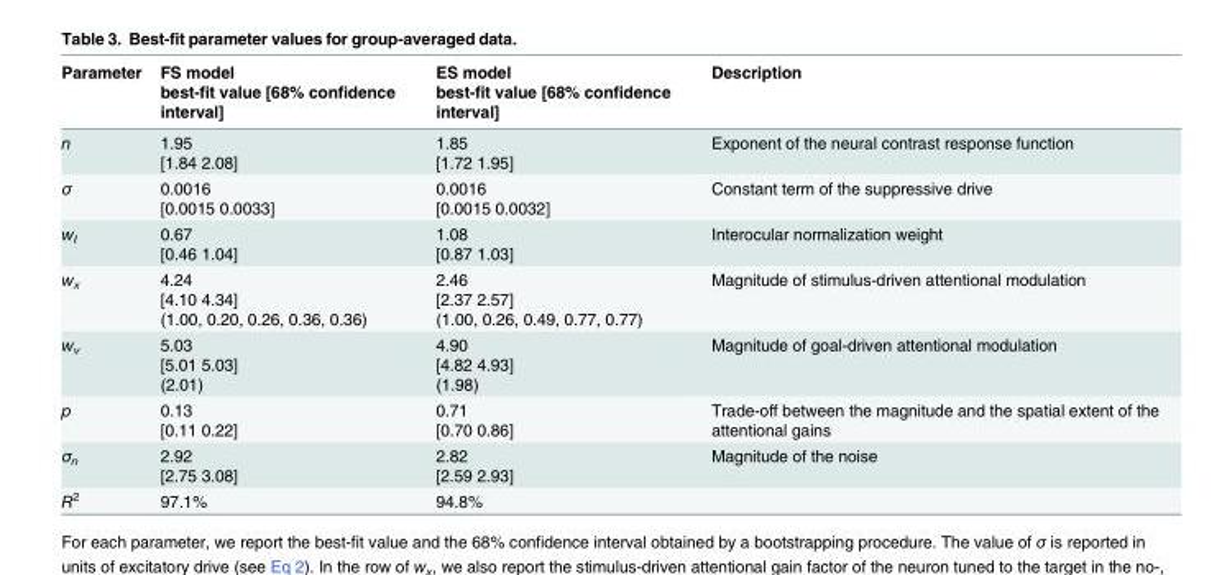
<table><thead><tr><td rowspan="2">Parameter</td><td rowspan="2">FS model best-fit value [68% confidence interval]</td><td rowspan="2">ES model best-fit value [68% confidence interval]</td><td rowspan="2">Description</td></tr><tr></tr></thead><tbody><tr><td>n</td><td>1.95 [1.84 2.08]</td><td>1.85 [1.72 1.95]</td><td>Exponent of the neural contrast response function</td></tr><tr><td>σ</td><td>0.0016 [0.0015 0.0033]</td><td>0.0016 [0.0015 0.0032]</td><td>Constant term of the suppressive drive</td></tr><tr><td>w<sub>I</sub></td><td>0.67 [0.46 1.04]</td><td>1.08 [0.87 1.03]</td><td>Interocular normalization weight</td></tr><tr><td>w<sub>x</sub></td><td>4.24 [4.10 4.34] (1.00, 0.20, 0.26, 0.36, 0.36)</td><td>2.46 [2.37 2.57] (1.00, 0.26, 0.49, 0.77, 0.77)</td><td>Magnitude of stimulus-driven attentional modulation</td></tr><tr><td>w<sub>v</sub></td><td>5.03 [5.01 5.03] (2.01)</td><td>4.90 [4.82 4.93] (1.98)</td><td>Magnitude of goal-driven attentional modulation</td></tr><tr><td>p</td><td>0.13 [0.11 0.22]</td><td>0.71 [0.70 0.86]</td><td>Trade-off between the magnitude and the spatial extent of the attentional gains</td></tr><tr><td>σ<sub>n</sub></td><td>2.92 [2.75 3.08]</td><td>2.82 [2.59 2.93]</td><td>Magnitude of the noise</td></tr><tr><td>R<sup>2</sup></td><td>97.1%</td><td>94.8%</td><td></td></tr></tbody></table>